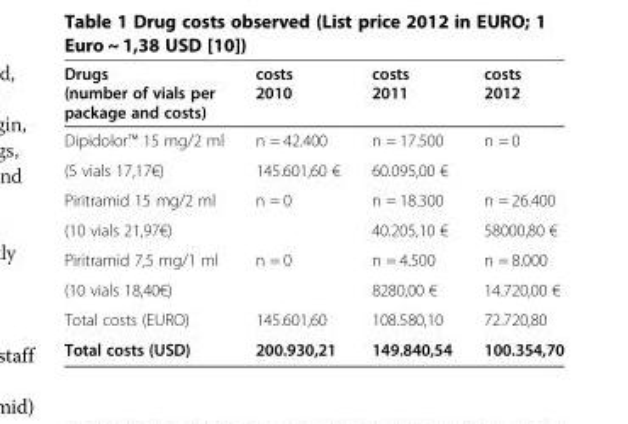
<table><thead><tr><td>Drugs (number of vials per package and costs)</td><td>costs 2010</td><td>costs 2011</td><td>costs 2012</td></tr></thead><tbody><tr><td>Dipidolor™ 15 mg/2 ml</td><td>n = 42.400</td><td>n = 17.500</td><td>n = 0</td></tr><tr><td>(5 vials 17,17€)</td><td>145.601,60 €</td><td>60.095,00 €</td><td></td></tr><tr><td>Piritramid 15 mg/2 ml</td><td>n = 0</td><td>n = 18.300</td><td>n = 26.400</td></tr><tr><td>(10 vials 21,97€)</td><td></td><td>40.205,10 €</td><td>58000,80 €</td></tr><tr><td>Piritramid 7,5 mg/1 ml</td><td>n = 0</td><td>n = 4.500</td><td>n = 8.000</td></tr><tr><td>(10 vials 18,40€)</td><td></td><td>8280,00 €</td><td>14.720,00 €</td></tr><tr><td>Total costs (EURO)</td><td>145.601,60</td><td>108.580,10</td><td>72.720,80</td></tr><tr><td>Total costs (USD)</td><td>200.930,21</td><td>149.840,54</td><td>100.354,70</td></tr></tbody></table>